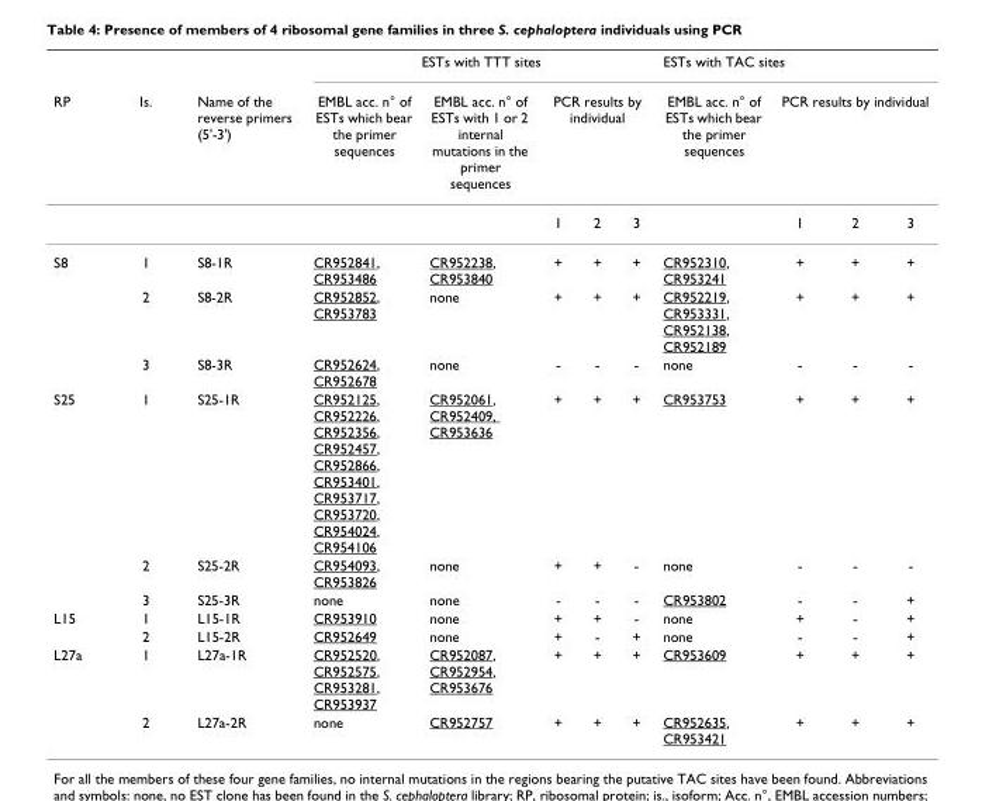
<table><thead><tr><td rowspan="3">RP</td><td rowspan="3">Is.</td><td rowspan="3">Name of the reverse primers (5&#x27;-3&#x27;)</td><td colspan="5">ESTs with TTT sites</td><td colspan="4">ESTs with TAC sites</td></tr><tr><td rowspan="2">EMBL acc. n° of ESTs which bear the primer sequences</td><td rowspan="2">EMBL acc. n° of ESTs with 1 or 2 internal mutations in the primer sequences</td><td colspan="3">PCR results by individual</td><td rowspan="2">EMBL acc. n° of ESTs which bear the primer sequences</td><td colspan="3">PCR results by individual</td></tr><tr><td>1</td><td>2</td><td>3</td><td>1</td><td>2</td><td>3</td></tr></thead><tbody><tr><td rowspan="3">S8</td><td>1</td><td>S8-1R</td><td>CR952841, CR953486</td><td>CR952238, CR953840</td><td>+</td><td>+</td><td>+</td><td>CR952310, CR953241</td><td>+</td><td>+</td><td>+</td></tr><tr><td>2</td><td>S8-2R</td><td>CR952852, CR953783</td><td>none</td><td>+</td><td>+</td><td>+</td><td>CR952219, CR953331, CR952138, CR952189</td><td>+</td><td>+</td><td>+</td></tr><tr><td>3</td><td>S8-3R</td><td>CR952624, CR952678</td><td>none</td><td>-</td><td>-</td><td>-</td><td>none</td><td>-</td><td>-</td><td>-</td></tr><tr><td rowspan="3">S25</td><td>1</td><td>S25-1R</td><td>CR952125, CR952226, CR952356, CR952457, CR952866, CR953401, CR953717, CR953720, CR954024, CR954106</td><td>CR952061, CR952409, CR953636</td><td>+</td><td>+</td><td>+</td><td>CR953753</td><td>+</td><td>+</td><td>+</td></tr><tr><td>2</td><td>S25-2R</td><td>CR954093, CR953826</td><td>none</td><td>+</td><td>+</td><td>-</td><td>none</td><td>-</td><td>-</td><td>-</td></tr><tr><td>3</td><td>S25-3R</td><td>none</td><td>none</td><td>-</td><td>-</td><td>-</td><td>CR953802</td><td>-</td><td>-</td><td>+</td></tr><tr><td rowspan="2">L15</td><td>1</td><td>L15-1R</td><td>CR953910</td><td>none</td><td>+</td><td>+</td><td>-</td><td>none</td><td>+</td><td>-</td><td>+</td></tr><tr><td>2</td><td>L15-2R</td><td>CR952649</td><td>none</td><td>+</td><td>-</td><td>+</td><td>none</td><td>-</td><td>-</td><td>+</td></tr><tr><td rowspan="2">L27a</td><td>1</td><td>L27a-1R</td><td>CR952520, CR952575, CR953281, CR953937</td><td>CR952087, CR952954, CR953676</td><td>+</td><td>+</td><td>+</td><td>CR953609</td><td>+</td><td>+</td><td>+</td></tr><tr><td>2</td><td>L27a-2R</td><td>none</td><td>CR952757</td><td>+</td><td>+</td><td>+</td><td>CR952635, CR953421</td><td>+</td><td>+</td><td>+</td></tr></tbody></table>